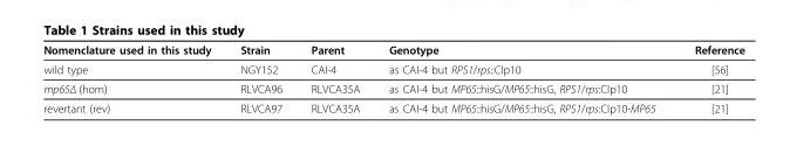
<table><thead><tr><td>Nomenclature used in this study</td><td>Strain</td><td>Parent</td><td>Genotype</td><td>Reference</td></tr></thead><tbody><tr><td>wild type</td><td>NGY152</td><td>CAI-4</td><td>as CAI-4 but RPS1/rps::CIp10</td><td>[56]</td></tr><tr><td>mp65Δ (hom)</td><td>RLVCA96</td><td>RLVCA35A</td><td>as CAI-4 but MP65::hisG/MP65::hisG, RPS1/rps:CIp10</td><td>[21]</td></tr><tr><td>revertant (rev)</td><td>RLVCA97</td><td>RLVCA35A</td><td>as CAI-4 but MP65::hisG/MP65::hisG, RPS1/rps:CIp10-MP65</td><td>[21]</td></tr></tbody></table>